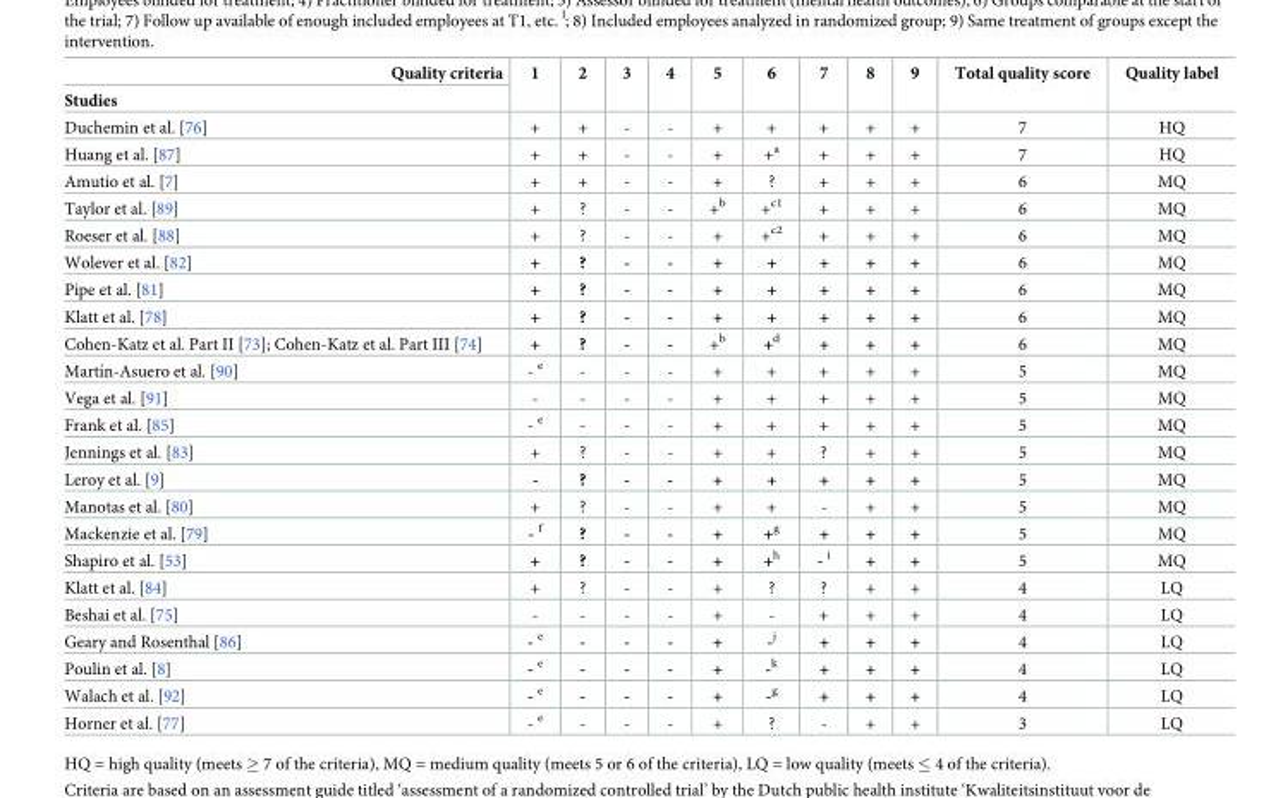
<table><thead><tr><td rowspan="2">Quality criteria Studies</td><td rowspan="2">1</td><td rowspan="2">2</td><td rowspan="2">3</td><td rowspan="2">4</td><td rowspan="2">5</td><td rowspan="2">6</td><td rowspan="2">7</td><td rowspan="2">8</td><td rowspan="2">9</td><td rowspan="2">Total quality score</td><td rowspan="2">Quality label</td></tr><tr></tr></thead><tbody><tr><td>Duchemin et al. [76]</td><td>+</td><td>+</td><td>-</td><td>-</td><td>+</td><td>+</td><td>+</td><td>+</td><td>+</td><td>7</td><td>HQ</td></tr><tr><td>Huang et al. [87]</td><td>+</td><td>+</td><td>-</td><td>-</td><td>+</td><td>+<sup>a</sup></td><td>+</td><td>+</td><td>+</td><td>7</td><td>HQ</td></tr><tr><td>Amutio et al. [7]</td><td>+</td><td>+</td><td>-</td><td>-</td><td>+</td><td>?</td><td>+</td><td>+</td><td>+</td><td>6</td><td>MQ</td></tr><tr><td>Taylor et al. [89]</td><td>+</td><td>?</td><td>-</td><td>-</td><td>+<sup>b</sup></td><td>+<sup>c1</sup></td><td>+</td><td>+</td><td>+</td><td>6</td><td>MQ</td></tr><tr><td>Roeser et al. [88]</td><td>+</td><td>?</td><td>-</td><td>-</td><td>+</td><td>+<sup>c2</sup></td><td>+</td><td>+</td><td>+</td><td>6</td><td>MQ</td></tr><tr><td>Wolever et al. [82]</td><td>+</td><td>?</td><td>-</td><td>-</td><td>+</td><td>+</td><td>+</td><td>+</td><td>+</td><td>6</td><td>MQ</td></tr><tr><td>Pipe et al. [81]</td><td>+</td><td>?</td><td>-</td><td>-</td><td>+</td><td>+</td><td>+</td><td>+</td><td>+</td><td>6</td><td>MQ</td></tr><tr><td>Klatt et al. [78]</td><td>+</td><td>?</td><td>-</td><td>-</td><td>+</td><td>+</td><td>+</td><td>+</td><td>+</td><td>6</td><td>MQ</td></tr><tr><td>Cohen-Katz et al. Part II [73]; Cohen-Katz et al. Part III [74]</td><td>+</td><td>?</td><td>-</td><td>-</td><td>+<sup>b</sup></td><td>+<sup>d</sup></td><td>+</td><td>+</td><td>+</td><td>6</td><td>MQ</td></tr><tr><td>Martı´n-Asuero et al. [90]</td><td>- e</td><td>-</td><td>-</td><td>-</td><td>+</td><td>+</td><td>+</td><td>+</td><td>+</td><td>5</td><td>MQ</td></tr><tr><td>Vega et al. [91]</td><td>-</td><td>-</td><td>-</td><td>-</td><td>+</td><td>+</td><td>+</td><td>+</td><td>+</td><td>5</td><td>MQ</td></tr><tr><td>Frank et al. [85]</td><td>- <sup>e</sup></td><td>-</td><td>-</td><td>-</td><td>+</td><td>+</td><td>+</td><td>+</td><td>+</td><td>5</td><td>MQ</td></tr><tr><td>Jennings et al. [83]</td><td>+</td><td>?</td><td>-</td><td>-</td><td>+</td><td>+</td><td>?</td><td>+</td><td>+</td><td>5</td><td>MQ</td></tr><tr><td>Leroy et al. [9]</td><td>-</td><td>?</td><td>-</td><td>-</td><td>+</td><td>+</td><td>+</td><td>+</td><td>+</td><td>5</td><td>MQ</td></tr><tr><td>Manotas et al. [80]</td><td>+</td><td>?</td><td>-</td><td>-</td><td>+</td><td>+</td><td>-</td><td>+</td><td>+</td><td>5</td><td>MQ</td></tr><tr><td>Mackenzie et al. [79]</td><td>- <sup>f</sup></td><td>?</td><td>-</td><td>-</td><td>+</td><td>+<sup>g</sup></td><td>+</td><td>+</td><td>+</td><td>5</td><td>MQ</td></tr><tr><td>Shapiro et al. [53]</td><td>+</td><td>?</td><td>-</td><td>-</td><td>+</td><td>+<sup>h</sup></td><td>- <sup>i</sup></td><td>+</td><td>+</td><td>5</td><td>MQ</td></tr><tr><td>Klatt et al. [84]</td><td>+</td><td>?</td><td>-</td><td>-</td><td>+</td><td>?</td><td>?</td><td>+</td><td>+</td><td>4</td><td>LQ</td></tr><tr><td>Beshai et al. [75]</td><td>-</td><td>-</td><td>-</td><td>-</td><td>+</td><td>-</td><td>+</td><td>+</td><td>+</td><td>4</td><td>LQ</td></tr><tr><td>Geary and Rosenthal [86]</td><td>- <sup>e</sup></td><td>-</td><td>-</td><td>-</td><td>+</td><td>-<sup>j</sup></td><td>+</td><td>+</td><td>+</td><td>4</td><td>LQ</td></tr><tr><td>Poulin et al. [8]</td><td>- <sup>e</sup></td><td>-</td><td>-</td><td>-</td><td>+</td><td>-<sup>k</sup></td><td>+</td><td>+</td><td>+</td><td>4</td><td>LQ</td></tr><tr><td>Walach et al. [92]</td><td>- <sup>e</sup></td><td>-</td><td>-</td><td>-</td><td>+</td><td>-<sup>g</sup></td><td>+</td><td>+</td><td>+</td><td>4</td><td>LQ</td></tr><tr><td>Horner et al. [77]</td><td>- <sup>e</sup></td><td>-</td><td>-</td><td>-</td><td>+</td><td>?</td><td>-</td><td>+</td><td>+</td><td>3</td><td>LQ</td></tr></tbody></table>